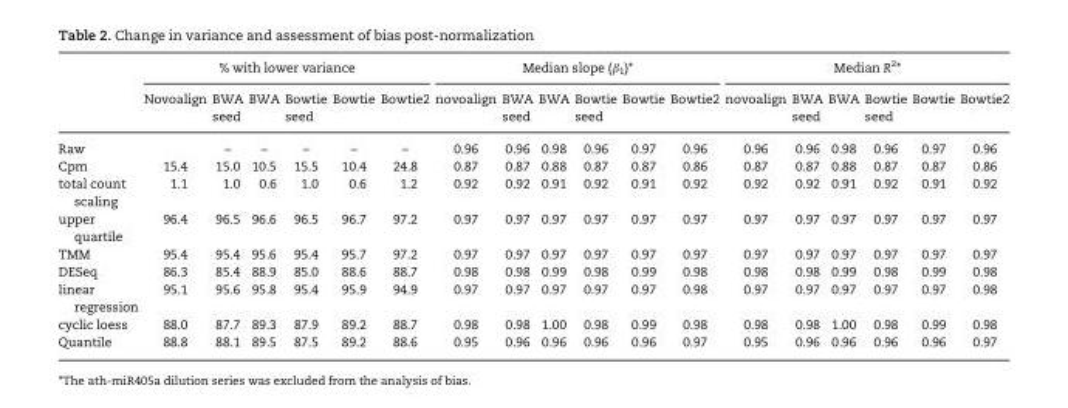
<table><thead><tr><td rowspan="2"></td><td colspan="6">% with lower variance</td><td colspan="6">Median slope (β<sub>1</sub>)*</td><td colspan="6">Median R<sup>2</sup>*</td></tr><tr><td>Novoalign</td><td>BWA seed</td><td>BWA</td><td>Bowtie seed</td><td>Bowtie</td><td>Bowtie2</td><td>novoalign</td><td>BWA seed</td><td>BWA</td><td>Bowtie seed</td><td>Bowtie</td><td>Bowtie2</td><td>novoalign</td><td>BWA seed</td><td>BWA</td><td>Bowtie seed</td><td>Bowtie</td><td>Bowtie2</td></tr></thead><tbody><tr><td>Raw</td><td></td><td>–</td><td>–</td><td>–</td><td>–</td><td>–</td><td>0.96</td><td>0.96</td><td>0.98</td><td>0.96</td><td>0.97</td><td>0.96</td><td>0.96</td><td>0.96</td><td>0.98</td><td>0.96</td><td>0.97</td><td>0.96</td></tr><tr><td>Cpm</td><td>15.4</td><td>15.0</td><td>10.5</td><td>15.5</td><td>10.4</td><td>24.8</td><td>0.87</td><td>0.87</td><td>0.88</td><td>0.87</td><td>0.87</td><td>0.86</td><td>0.87</td><td>0.87</td><td>0.88</td><td>0.87</td><td>0.87</td><td>0.86</td></tr><tr><td>total count scaling</td><td>1.1</td><td>1.0</td><td>0.6</td><td>1.0</td><td>0.6</td><td>1.2</td><td>0.92</td><td>0.92</td><td>0.91</td><td>0.92</td><td>0.91</td><td>0.92</td><td>0.92</td><td>0.92</td><td>0.91</td><td>0.92</td><td>0.91</td><td>0.92</td></tr><tr><td>upper quartile</td><td>96.4</td><td>96.5</td><td>96.6</td><td>96.5</td><td>96.7</td><td>97.2</td><td>0.97</td><td>0.97</td><td>0.97</td><td>0.97</td><td>0.97</td><td>0.97</td><td>0.97</td><td>0.97</td><td>0.97</td><td>0.97</td><td>0.97</td><td>0.97</td></tr><tr><td>TMM</td><td>95.4</td><td>95.4</td><td>95.6</td><td>95.4</td><td>95.7</td><td>97.2</td><td>0.97</td><td>0.97</td><td>0.97</td><td>0.97</td><td>0.97</td><td>0.97</td><td>0.97</td><td>0.97</td><td>0.97</td><td>0.97</td><td>0.97</td><td>0.97</td></tr><tr><td>DESeq</td><td>86.3</td><td>85.4</td><td>88.9</td><td>85.0</td><td>88.6</td><td>88.7</td><td>0.98</td><td>0.98</td><td>0.99</td><td>0.98</td><td>0.99</td><td>0.98</td><td>0.98</td><td>0.98</td><td>0.99</td><td>0.98</td><td>0.99</td><td>0.98</td></tr><tr><td>linear regression</td><td>95.1</td><td>95.6</td><td>95.8</td><td>95.4</td><td>95.9</td><td>94.9</td><td>0.97</td><td>0.97</td><td>0.97</td><td>0.97</td><td>0.97</td><td>0.98</td><td>0.97</td><td>0.97</td><td>0.97</td><td>0.97</td><td>0.97</td><td>0.98</td></tr><tr><td>cyclic loess</td><td>88.0</td><td>87.7</td><td>89.3</td><td>87.9</td><td>89.2</td><td>88.7</td><td>0.98</td><td>0.98</td><td>1.00</td><td>0.98</td><td>0.99</td><td>0.98</td><td>0.98</td><td>0.98</td><td>1.00</td><td>0.98</td><td>0.99</td><td>0.98</td></tr><tr><td>Quantile</td><td>88.8</td><td>88.1</td><td>89.5</td><td>87.5</td><td>89.2</td><td>88.6</td><td>0.95</td><td>0.96</td><td>0.96</td><td>0.96</td><td>0.96</td><td>0.97</td><td>0.95</td><td>0.96</td><td>0.96</td><td>0.96</td><td>0.96</td><td>0.97</td></tr></tbody></table>